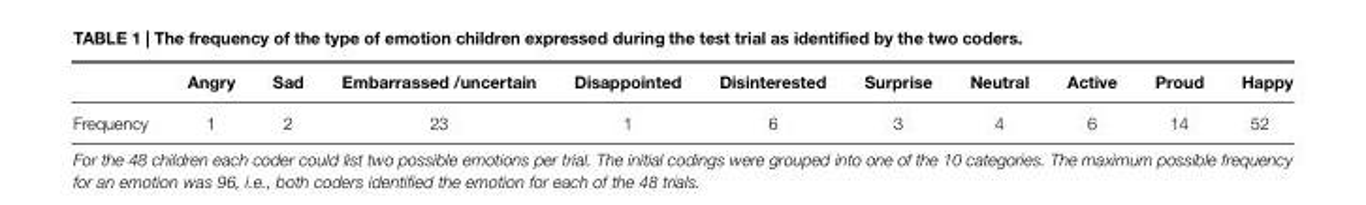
<table><thead><tr><td></td><td>Angry</td><td>Sad</td><td>Embarrassed /uncertain</td><td>Disappointed</td><td>Disinterested</td><td>Surprise</td><td>Neutral</td><td>Active</td><td>Proud</td><td>Happy</td></tr></thead><tbody><tr><td>Frequency</td><td>1</td><td>2</td><td>23</td><td>1</td><td>6</td><td>3</td><td>4</td><td>6</td><td>14</td><td>52</td></tr></tbody></table>